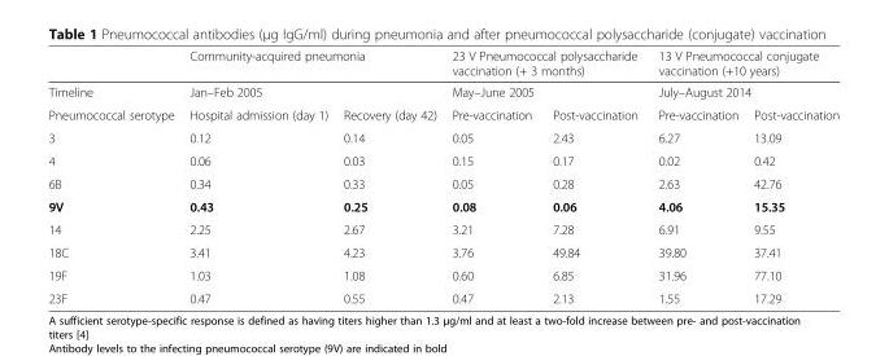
<table><thead><tr><td rowspan="3">Timeline Pneumococcal serotype</td><td rowspan="2" colspan="2">Community-acquired pneumonia Jan–Feb 2005</td><td rowspan="2" colspan="2">23 V Pneumococcal polysaccharide vaccination (+ 3 months) May–June 2005</td><td rowspan="2" colspan="2">13 V Pneumococcal conjugate vaccination (+10 years) July–August 2014</td></tr><tr></tr><tr><td>Hospital admission (day 1)</td><td>Recovery (day 42)</td><td>Pre-vaccination</td><td>Post-vaccination</td><td>Pre-vaccination</td><td>Post-vaccination</td></tr></thead><tbody><tr><td>3</td><td>0.12</td><td>0.14</td><td>0.05</td><td>2.43</td><td>6.27</td><td>13.09</td></tr><tr><td>4</td><td>0.06</td><td>0.03</td><td>0.15</td><td>0.17</td><td>0.02</td><td>0.42</td></tr><tr><td>6B</td><td>0.34</td><td>0.33</td><td>0.05</td><td>0.28</td><td>2.63</td><td>42.76</td></tr><tr><td>9V</td><td>0.43</td><td>0.25</td><td>0.08</td><td>0.06</td><td>4.06</td><td>15.35</td></tr><tr><td>14</td><td>2.25</td><td>2.67</td><td>3.21</td><td>7.28</td><td>6.91</td><td>9.55</td></tr><tr><td>18C</td><td>3.41</td><td>4.23</td><td>3.76</td><td>49.84</td><td>39.80</td><td>37.41</td></tr><tr><td>19F</td><td>1.03</td><td>1.08</td><td>0.60</td><td>6.85</td><td>31.96</td><td>77.10</td></tr><tr><td>23F</td><td>0.47</td><td>0.55</td><td>0.47</td><td>2.13</td><td>1.55</td><td>17.29</td></tr></tbody></table>